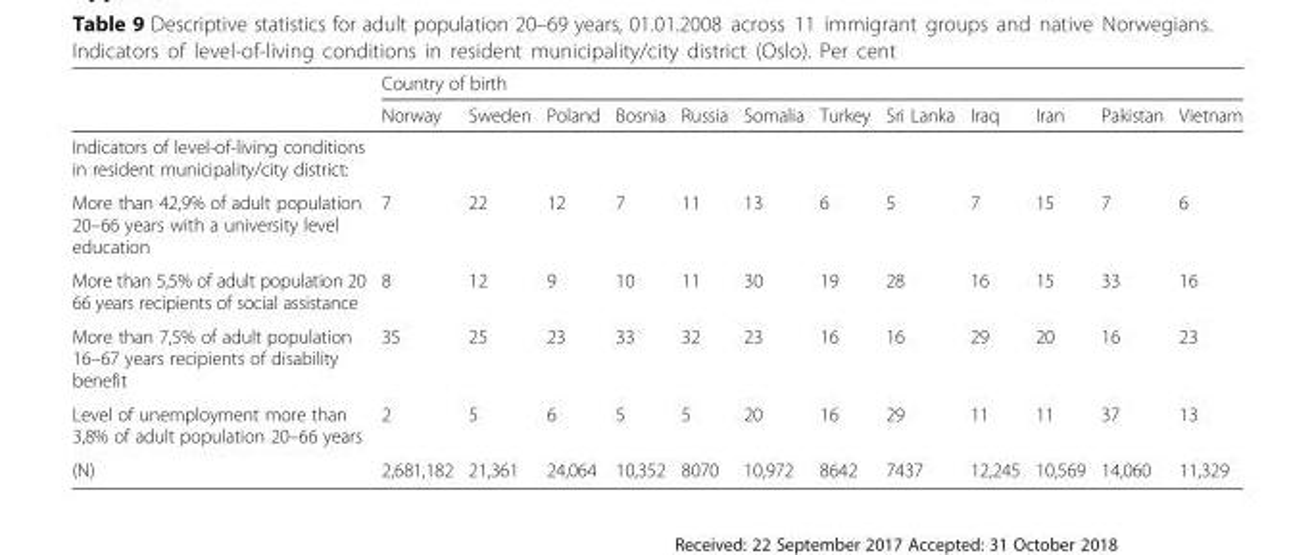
<table><thead><tr><td rowspan="2"></td><td colspan="12">Country of birth</td></tr><tr><td>Norway</td><td>Sweden</td><td>Poland</td><td>Bosnia</td><td>Russia</td><td>Somalia</td><td>Turkey</td><td>Sri Lanka</td><td>Iraq</td><td>Iran</td><td>Pakistan</td><td>Vietnam</td></tr></thead><tbody><tr><td colspan="13">Indicators of level-of-living conditions in resident municipality/city district:</td></tr><tr><td>More than 42,9% of adult population 20–66 years with a university level education</td><td>7</td><td>22</td><td>12</td><td>7</td><td>11</td><td>13</td><td>6</td><td>5</td><td>7</td><td>15</td><td>7</td><td>6</td></tr><tr><td>More than 5,5% of adult population 20 66 years recipients of social assistance</td><td>8</td><td>12</td><td>9</td><td>10</td><td>11</td><td>30</td><td>19</td><td>28</td><td>16</td><td>15</td><td>33</td><td>16</td></tr><tr><td>More than 7,5% of adult population 16–67 years recipients of disability benefit</td><td>35</td><td>25</td><td>23</td><td>33</td><td>32</td><td>23</td><td>16</td><td>16</td><td>29</td><td>20</td><td>16</td><td>23</td></tr><tr><td>Level of unemployment more than 3,8% of adult population 20–66 years</td><td>2</td><td>5</td><td>6</td><td>5</td><td>5</td><td>20</td><td>16</td><td>29</td><td>11</td><td>11</td><td>37</td><td>13</td></tr><tr><td>(N)</td><td>2,681,182</td><td>21,361</td><td>24,064</td><td>10,352</td><td>8070</td><td>10,972</td><td>8642</td><td>7437</td><td>12,245</td><td>10,569</td><td>14,060</td><td>11,329</td></tr></tbody></table>